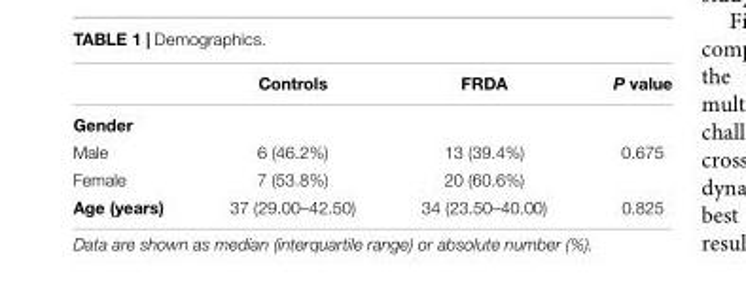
<table><thead><tr><td></td><td>Controls</td><td>FRDA</td><td>P value</td></tr></thead><tbody><tr><td colspan="4">Gender</td></tr><tr><td>Male</td><td>6 (46.2%)</td><td>13 (39.4%)</td><td>0.675</td></tr><tr><td>Female</td><td>7 (53.8%)</td><td>20 (60.6%)</td><td></td></tr><tr><td>Age (years)</td><td>37 (29.00–42.50)</td><td>34 (23.50–40.00)</td><td>0.825</td></tr></tbody></table>